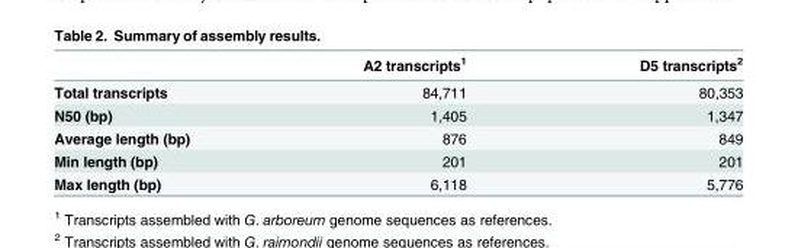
<table><thead><tr><td></td><td>A2 transcripts<sup>1</sup></td><td>D5 transcripts<sup>2</sup></td></tr></thead><tbody><tr><td>Total transcripts</td><td>84,711</td><td>80,353</td></tr><tr><td>N50 (bp)</td><td>1,405</td><td>1,347</td></tr><tr><td>Average length (bp)</td><td>876</td><td>849</td></tr><tr><td>Min length (bp)</td><td>201</td><td>201</td></tr><tr><td>Max length (bp)</td><td>6,118</td><td>5,776</td></tr></tbody></table>